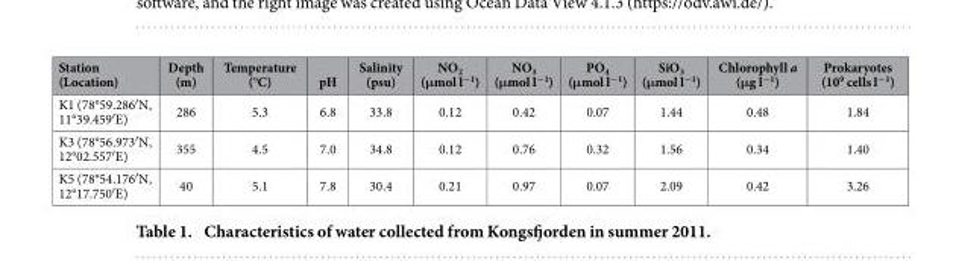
<table><thead><tr><td>Station (Location)</td><td>Depth (m)</td><td>Temperature (°C)</td><td>pH</td><td>Salinity (psu)</td><td>NO<sub>2</sub> (μmol l<sup>−1</sup>)</td><td>NO<sub>3</sub> (μmol l<sup>−1</sup>)</td><td>PO<sub>4</sub> (μmol l<sup>−1</sup>)</td><td>SiO<sub>3</sub> (μmol l<sup>−1</sup>)</td><td>Chlorophyll a (μg l<sup>−1</sup>)</td><td>Prokaryotes (10<sup>9</sup> cells l<sup>−1</sup>)</td></tr></thead><tbody><tr><td>K1 (78°59.286′ N, 11°39.459′ E)</td><td>286</td><td>5.3</td><td>6.8</td><td>33.8</td><td>0.12</td><td>0.42</td><td>0.07</td><td>1.44</td><td>0.48</td><td>1.84</td></tr><tr><td>K3 (78°56.973′ N, 12°02.557′ E)</td><td>355</td><td>4.5</td><td>7.0</td><td>34.8</td><td>0.12</td><td>0.76</td><td>0.32</td><td>1.56</td><td>0.34</td><td>1.40</td></tr><tr><td>K5 (78°54.176′ N, 12°17.750′ E)</td><td>40</td><td>5.1</td><td>7.8</td><td>30.4</td><td>0.21</td><td>0.97</td><td>0.07</td><td>2.09</td><td>0.42</td><td>3.26</td></tr></tbody></table>